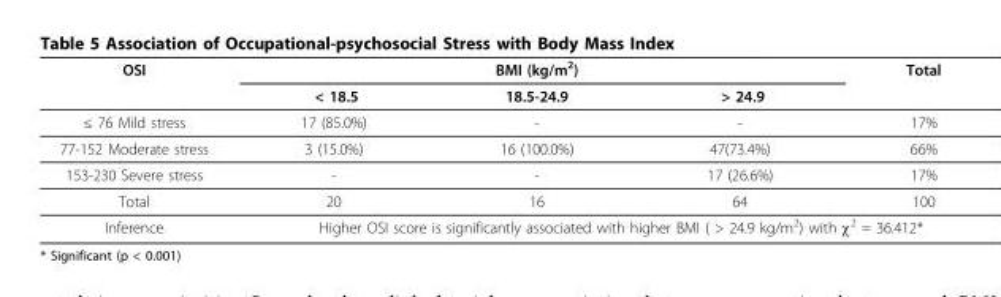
<table><thead><tr><td rowspan="2">OSI</td><td colspan="3">BMI (kg/m<sup>2</sup>)</td><td rowspan="2">Total</td></tr><tr><td>&lt; 18.5</td><td>18.5-24.9</td><td>&gt; 24.9</td></tr></thead><tbody><tr><td>≤ 76 Mild stress</td><td>17 (85.0%)</td><td>-</td><td>-</td><td>17%</td></tr><tr><td>77-152 Moderate stress</td><td>3 (15.0%)</td><td>16 (100.0%)</td><td>47(73.4%)</td><td>66%</td></tr><tr><td>153-230 Severe stress</td><td>-</td><td>-</td><td>17 (26.6%)</td><td>17%</td></tr><tr><td>Total</td><td>20</td><td>16</td><td>64</td><td>100</td></tr><tr><td>Inference</td><td colspan="4">Higher OSI score is significantly associated with higher BMI ( &gt; 24.9 kg/m<sup>2</sup>) with χ<sup>2</sup> = 36.412*</td></tr></tbody></table>